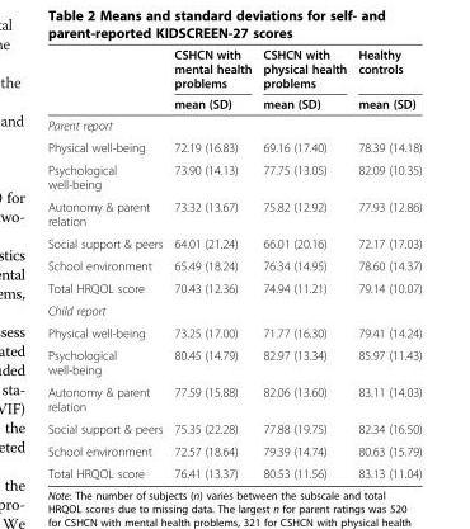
<table><thead><tr><td rowspan="2"></td><td rowspan="2">CSHCN with mental health problems mean (SD)</td><td rowspan="2">CSHCN with physical health problems mean (SD)</td><td rowspan="2">Healthy controls mean (SD)</td></tr><tr></tr></thead><tbody><tr><td colspan="4">Parent report</td></tr><tr><td>Physical well-being</td><td>72.19 (16.83)</td><td>69.16 (17.40)</td><td>78.39 (14.18)</td></tr><tr><td>Psychological well-being</td><td>73.90 (14.13)</td><td>77.75 (13.05)</td><td>82.09 (10.35)</td></tr><tr><td>Autonomy &amp; parent relation</td><td>73.32 (13.67)</td><td>75.82 (12.92)</td><td>77.93 (12.86)</td></tr><tr><td>Social support &amp; peers</td><td>64.01 (21.24)</td><td>66.01 (20.16)</td><td>72.17 (17.03)</td></tr><tr><td>School environment</td><td>65.49 (18.24)</td><td>76.34 (14.95)</td><td>78.60 (14.37)</td></tr><tr><td>Total HRQOL score</td><td>70.43 (12.36)</td><td>74.94 (11.21)</td><td>79.14 (10.07)</td></tr><tr><td colspan="4">Child report</td></tr><tr><td>Physical well-being</td><td>73.25 (17.00)</td><td>71.77 (16.30)</td><td>79.41 (14.24)</td></tr><tr><td>Psychological well-being</td><td>80.45 (14.79)</td><td>82.97 (13.34)</td><td>85.97 (11.43)</td></tr><tr><td>Autonomy &amp; parent relation</td><td>77.59 (15.88)</td><td>82.06 (13.60)</td><td>83.11 (14.03)</td></tr><tr><td>Social support &amp; peers</td><td>75.35 (22.28)</td><td>77.88 (19.75)</td><td>82.34 (16.50)</td></tr><tr><td>School environment</td><td>72.57 (18.64)</td><td>79.39 (14.74)</td><td>80.63 (15.79)</td></tr><tr><td>Total HRQOL score</td><td>76.41 (13.37)</td><td>80.53 (11.56)</td><td>83.13 (11.04)</td></tr></tbody></table>